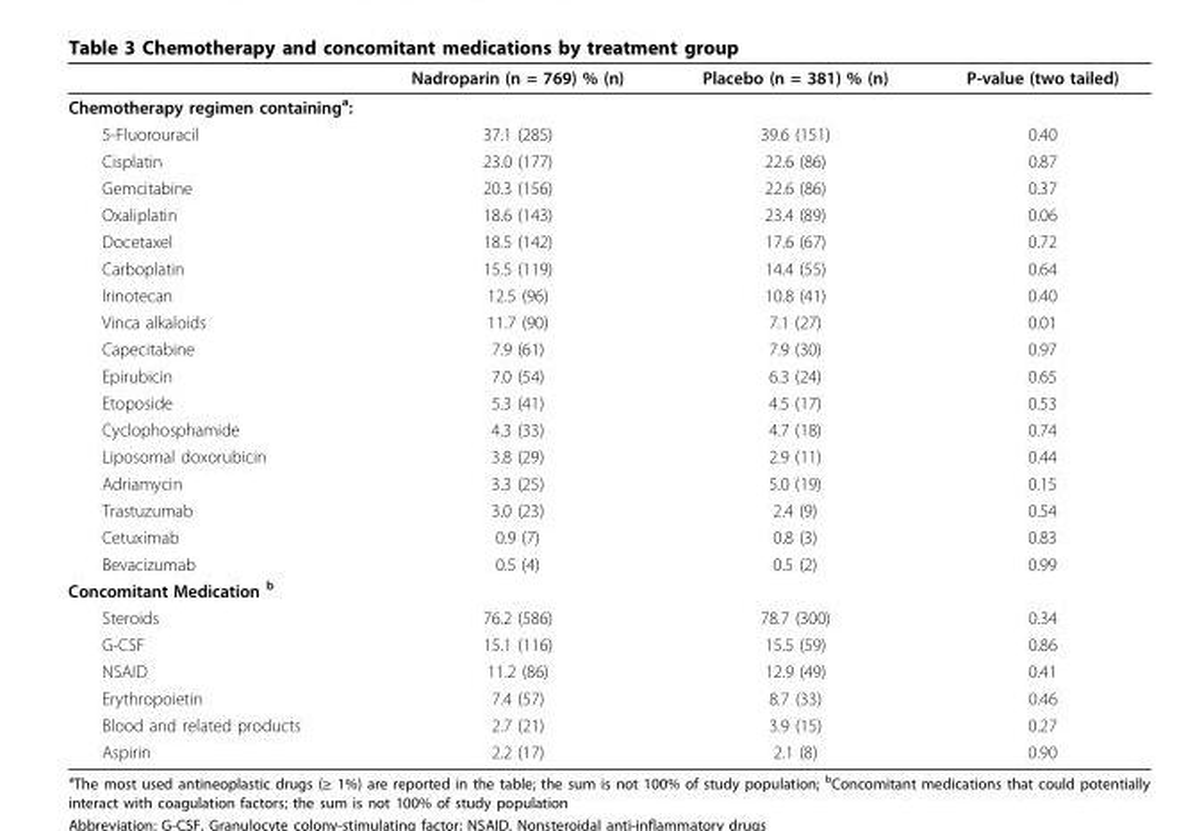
<table><thead><tr><td></td><td>Nadroparin (n = 769) % (n)</td><td>Placebo (n = 381) % (n)</td><td>P-value (two tailed)</td></tr></thead><tbody><tr><td colspan="4">Chemotherapy regimen containing<sup>a</sup>:</td></tr><tr><td>5-Fluorouracil</td><td>37.1 (285)</td><td>39.6 (151)</td><td>0.40</td></tr><tr><td>Cisplatin</td><td>23.0 (177)</td><td>22.6 (86)</td><td>0.87</td></tr><tr><td>Gemcitabine</td><td>20.3 (156)</td><td>22.6 (86)</td><td>0.37</td></tr><tr><td>Oxaliplatin</td><td>18.6 (143)</td><td>23.4 (89)</td><td>0.06</td></tr><tr><td>Docetaxel</td><td>18.5 (142)</td><td>17.6 (67)</td><td>0.72</td></tr><tr><td>Carboplatin</td><td>15.5 (119)</td><td>14.4 (55)</td><td>0.64</td></tr><tr><td>Irinotecan</td><td>12.5 (96)</td><td>10.8 (41)</td><td>0.40</td></tr><tr><td>Vinca alkaloids</td><td>11.7 (90)</td><td>7.1 (27)</td><td>0.01</td></tr><tr><td>Capecitabine</td><td>7.9 (61)</td><td>7.9 (30)</td><td>0.97</td></tr><tr><td>Epirubicin</td><td>7.0 (54)</td><td>6.3 (24)</td><td>0.65</td></tr><tr><td>Etoposide</td><td>5.3 (41)</td><td>4.5 (17)</td><td>0.53</td></tr><tr><td>Cyclophosphamide</td><td>4.3 (33)</td><td>4.7 (18)</td><td>0.74</td></tr><tr><td>Liposomal doxorubicin</td><td>3.8 (29)</td><td>2.9 (11)</td><td>0.44</td></tr><tr><td>Adriamycin</td><td>3.3 (25)</td><td>5.0 (19)</td><td>0.15</td></tr><tr><td>Trastuzumab</td><td>3.0 (23)</td><td>2.4 (9)</td><td>0.54</td></tr><tr><td>Cetuximab</td><td>0.9 (7)</td><td>0.8 (3)</td><td>0.83</td></tr><tr><td>Bevacizumab</td><td>0.5 (4)</td><td>0.5 (2)</td><td>0.99</td></tr><tr><td colspan="4">Concomitant Medication <sup>b</sup></td></tr><tr><td>Steroids</td><td>76.2 (586)</td><td>78.7 (300)</td><td>0.34</td></tr><tr><td>G-CSF</td><td>15.1 (116)</td><td>15.5 (59)</td><td>0.86</td></tr><tr><td>NSAID</td><td>11.2 (86)</td><td>12.9 (49)</td><td>0.41</td></tr><tr><td>Erythropoietin</td><td>7.4 (57)</td><td>8.7 (33)</td><td>0.46</td></tr><tr><td>Blood and related products</td><td>2.7 (21)</td><td>3.9 (15)</td><td>0.27</td></tr><tr><td>Aspirin</td><td>2.2 (17)</td><td>2.1 (8)</td><td>0.90</td></tr></tbody></table>